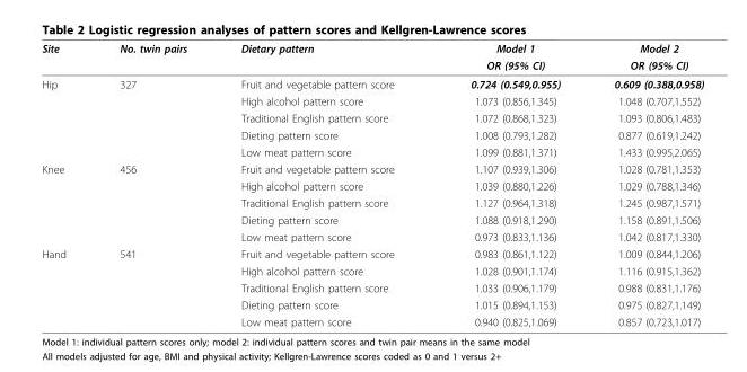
<table><thead><tr><td rowspan="2">Site</td><td rowspan="2">No. twin pairs</td><td rowspan="2">Dietary pattern</td><td rowspan="2">Model 1 OR (95% CI)</td><td rowspan="2">Model 2 OR (95% CI)</td></tr><tr></tr></thead><tbody><tr><td rowspan="5">Hip</td><td>327</td><td>Fruit and vegetable pattern score</td><td>0.724 (0.549,0.955)</td><td>0.609 (0.388,0.958)</td></tr><tr><td></td><td>High alcohol pattern score</td><td>1.073 (0.856,1.345)</td><td>1.048 (0.707,1.552)</td></tr><tr><td></td><td>Traditional English pattern score</td><td>1.072 (0.868,1.323)</td><td>1.093 (0.806,1.483)</td></tr><tr><td></td><td>Dieting pattern score</td><td>1.008 (0.793,1.282)</td><td>0.877 (0.619,1.242)</td></tr><tr><td></td><td>Low meat pattern score</td><td>1.099 (0.881,1.371)</td><td>1.433 (0.995,2.065)</td></tr><tr><td rowspan="5">Knee</td><td>456</td><td>Fruit and vegetable pattern score</td><td>1.107 (0.939,1.306)</td><td>1.028 (0.781,1.353)</td></tr><tr><td></td><td>High alcohol pattern score</td><td>1.039 (0.880,1.226)</td><td>1.029 (0.788,1.346)</td></tr><tr><td></td><td>Traditional English pattern score</td><td>1.127 (0.964,1.318)</td><td>1.245 (0.987,1.571)</td></tr><tr><td></td><td>Dieting pattern score</td><td>1.088 (0.918,1.290)</td><td>1.158 (0.891,1.506)</td></tr><tr><td></td><td>Low meat pattern score</td><td>0.973 (0.833,1.136)</td><td>1.042 (0.817,1.330)</td></tr><tr><td rowspan="5">Hand</td><td>541</td><td>Fruit and vegetable pattern score</td><td>0.983 (0.861,1.122)</td><td>1.009 (0.844,1.206)</td></tr><tr><td></td><td>High alcohol pattern score</td><td>1.028 (0.901,1.174)</td><td>1.116 (0.915,1.362)</td></tr><tr><td></td><td>Traditional English pattern score</td><td>1.033 (0.906,1.179)</td><td>0.988 (0.831,1.176)</td></tr><tr><td></td><td>Dieting pattern score</td><td>1.015 (0.894,1.153)</td><td>0.975 (0.827,1.149)</td></tr><tr><td></td><td>Low meat pattern score</td><td>0.940 (0.825,1.069)</td><td>0.857 (0.723,1.017)</td></tr></tbody></table>